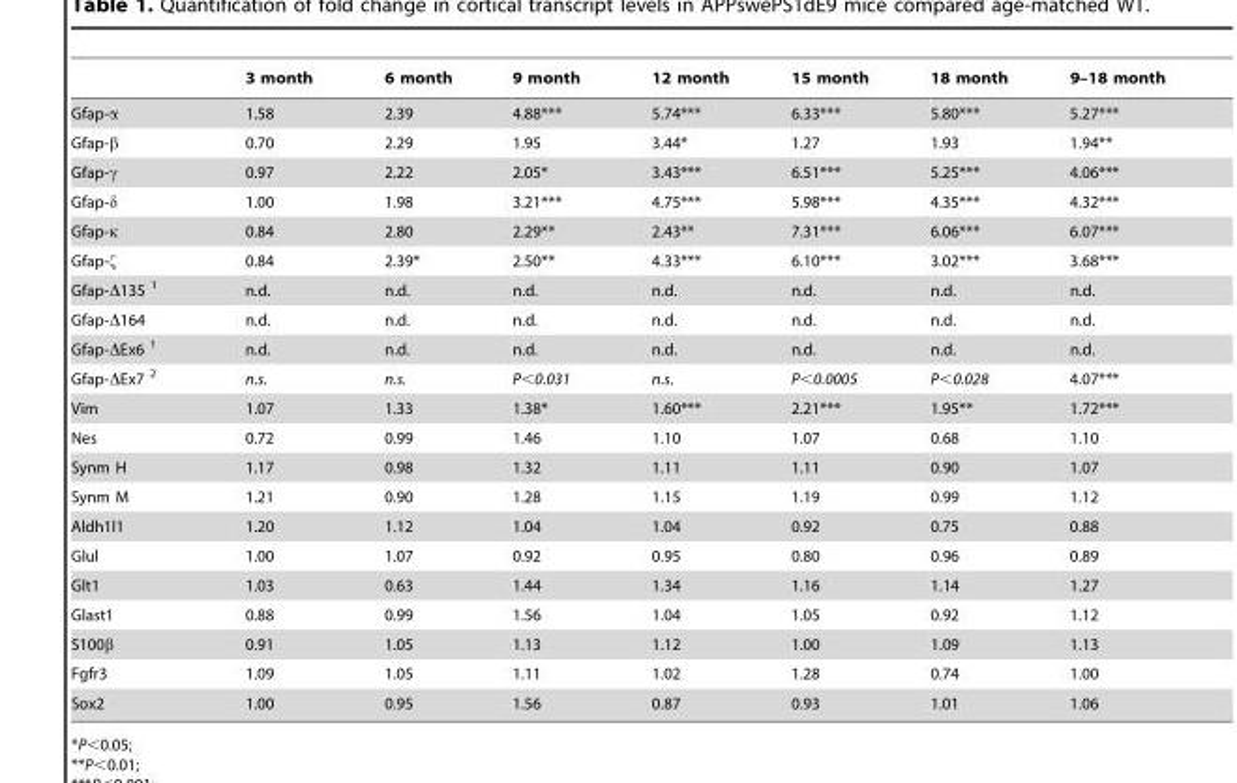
<table><thead><tr><td></td><td>3 month</td><td>6 month</td><td>9 month</td><td>12 month</td><td>15 month</td><td>18 month</td><td>9–18 month</td></tr></thead><tbody><tr><td>Gfap-α</td><td>1.58</td><td>2.39</td><td>4.88***</td><td>5.74***</td><td>6.33***</td><td>5.80***</td><td>5.27***</td></tr><tr><td>Gfap-β</td><td>0.70</td><td>2.29</td><td>1.95</td><td>3.44*</td><td>1.27</td><td>1.93</td><td>1.94**</td></tr><tr><td>Gfap-γ</td><td>0.97</td><td>2.22</td><td>2.05*</td><td>3.43***</td><td>6.51***</td><td>5.25***</td><td>4.06***</td></tr><tr><td>Gfap-δ</td><td>1.00</td><td>1.98</td><td>3.21***</td><td>4.75***</td><td>5.98***</td><td>4.35***</td><td>4.32***</td></tr><tr><td>Gfap-κ</td><td>0.84</td><td>2.80</td><td>2.29**</td><td>2.43**</td><td>7.31***</td><td>6.06***</td><td>6.07***</td></tr><tr><td>Gfap-ζ</td><td>0.84</td><td>2.39*</td><td>2.50**</td><td>4.33***</td><td>6.10***</td><td>3.02***</td><td>3.68***</td></tr><tr><td>Gfap-Δ135 1</td><td>n.d.</td><td>n.d.</td><td>n.d.</td><td>n.d.</td><td>n.d.</td><td>n.d.</td><td>n.d.</td></tr><tr><td>Gfap-Δ164</td><td>n.d.</td><td>n.d.</td><td>n.d.</td><td>n.d.</td><td>n.d.</td><td>n.d.</td><td>n.d.</td></tr><tr><td>Gfap-ΔEx6 1</td><td>n.d.</td><td>n.d.</td><td>n.d.</td><td>n.d.</td><td>n.d.</td><td>n.d.</td><td>n.d.</td></tr><tr><td>Gfap-ΔEx7 2</td><td>n.s.</td><td>n.s.</td><td>P&lt;0.031</td><td>n.s.</td><td>P&lt;0.0005</td><td>P&lt;0.028</td><td>4.07***</td></tr><tr><td>Vim</td><td>1.07</td><td>1.33</td><td>1.38*</td><td>1.60***</td><td>2.21***</td><td>1.95**</td><td>1.72***</td></tr><tr><td>Nes</td><td>0.72</td><td>0.99</td><td>1.46</td><td>1.10</td><td>1.07</td><td>0.68</td><td>1.10</td></tr><tr><td>Synm H</td><td>1.17</td><td>0.98</td><td>1.32</td><td>1.11</td><td>1.11</td><td>0.90</td><td>1.07</td></tr><tr><td>Synm M</td><td>1.21</td><td>0.90</td><td>1.28</td><td>1.15</td><td>1.19</td><td>0.99</td><td>1.12</td></tr><tr><td>Aldh1l1</td><td>1.20</td><td>1.12</td><td>1.04</td><td>1.04</td><td>0.92</td><td>0.75</td><td>0.88</td></tr><tr><td>Glul</td><td>1.00</td><td>1.07</td><td>0.92</td><td>0.95</td><td>0.80</td><td>0.96</td><td>0.89</td></tr><tr><td>Glt1</td><td>1.03</td><td>0.63</td><td>1.44</td><td>1.34</td><td>1.16</td><td>1.14</td><td>1.27</td></tr><tr><td>Glast1</td><td>0.88</td><td>0.99</td><td>1.56</td><td>1.04</td><td>1.05</td><td>0.92</td><td>1.12</td></tr><tr><td>S100β</td><td>0.91</td><td>1.05</td><td>1.13</td><td>1.12</td><td>1.00</td><td>1.09</td><td>1.13</td></tr><tr><td>Fgfr3</td><td>1.09</td><td>1.05</td><td>1.11</td><td>1.02</td><td>1.28</td><td>0.74</td><td>1.00</td></tr><tr><td>Sox2</td><td>1.00</td><td>0.95</td><td>1.56</td><td>0.87</td><td>0.93</td><td>1.01</td><td>1.06</td></tr></tbody></table>